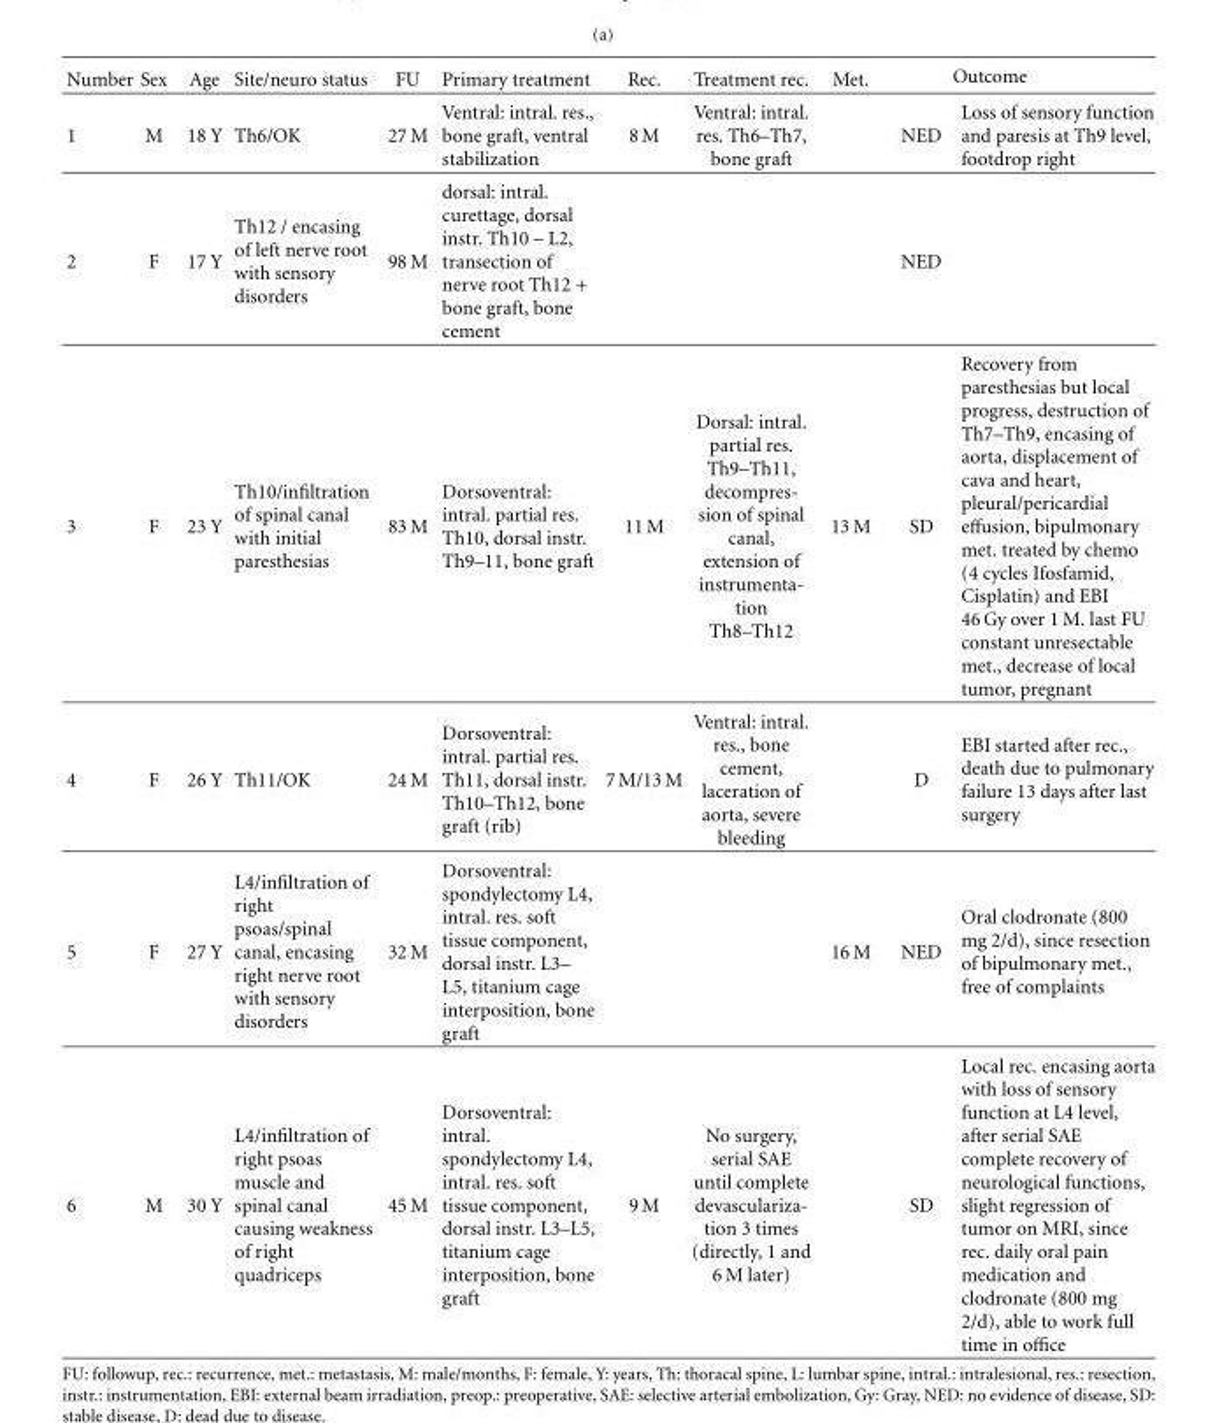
<table><thead><tr><td rowspan="2">Number 1</td><td rowspan="2">Sex M</td><td rowspan="2">Age 18 Y</td><td rowspan="2">Site/neuro status Th6/OK</td><td rowspan="2">FU 27 M</td><td rowspan="2">Primary treatment Ventral: intral. res., bone graft, ventral stabilization</td><td rowspan="2">Rec. 8 M</td><td rowspan="2">Treatment rec. Ventral: intral. res. Th6–Th7, bone graft</td><td rowspan="2">Met.</td><td colspan="2">Outcome</td></tr><tr><td>NED</td><td>Loss of sensory function and paresis at Th9 level, footdrop right</td></tr></thead><tbody><tr><td>2</td><td>F</td><td>17 Y</td><td>Th12 / encasing of left nerve root with sensory disorders</td><td>98 M</td><td>dorsal: intral. curettage, dorsal instr. Th10 – L2, transection of nerve root Th12 + bone graft, bone cement</td><td></td><td></td><td></td><td>NED</td><td></td></tr><tr><td>3</td><td>F</td><td>23 Y</td><td>Th10/infiltration of spinal canal with initial paresthesias</td><td>83 M</td><td>Dorsoventral: intral. partial res. Th10, dorsal instr. Th9–11, bone graft</td><td>11 M</td><td>Dorsal: intral. partial res. Th9–Th11, decompres- sion of spinal canal, extension of instrumenta- tion Th8–Th12</td><td>13 M</td><td>SD</td><td>Recovery from paresthesias but local progress, destruction of Th7–Th9, encasing of aorta, displacement of cava and heart, pleural/pericardial effusion, bipulmonary met. treated by chemo (4 cycles Ifosfamid, Cisplatin) and EBI 46 Gy over 1 M. last FU constant unresectable met., decrease of local tumor, pregnant</td></tr><tr><td>4</td><td>F</td><td>26 Y</td><td>Th11/OK</td><td>24 M</td><td>Dorsoventral: intral. partial res. Th11, dorsal instr. Th10–Th12, bone graft (rib)</td><td>7 M/13 M</td><td>Ventral: intral. res., bone cement, laceration of aorta, severe bleeding</td><td></td><td>D</td><td>EBI started after rec., death due to pulmonary failure 13 days after last surgery</td></tr><tr><td>5</td><td>F</td><td>27 Y</td><td>L4/infiltration of right psoas/spinal canal, encasing right nerve root with sensory disorders</td><td>32 M</td><td>Dorsoventral: spondylectomy L4, intral. res. soft tissue component, dorsal instr. L3– L5, titanium cage interposition, bone graft</td><td></td><td></td><td>16 M</td><td>NED</td><td>Oral clodronate (800 mg 2/d), since resection of bipulmonary met., free of complaints</td></tr><tr><td>6</td><td>M</td><td>30 Y</td><td>L4/infiltration of right psoas muscle and spinal canal causing weakness of right quadriceps</td><td>45 M</td><td>Dorsoventral: intral. spondylectomy L4, intral. res. soft tissue component, dorsal instr. L3–L5, titanium cage interposition, bone graft</td><td>9 M</td><td>No surgery, serial SAE until complete devasculariza- tion 3 times (directly, 1 and 6 M later)</td><td></td><td>SD</td><td>Local rec. encasing aorta with loss of sensory function at L4 level, after serial SAE complete recovery of neurological functions, slight regression of tumor on MRI, since rec. daily oral pain medication and clodronate (800 mg 2/d), able to work full time in office</td></tr></tbody></table>